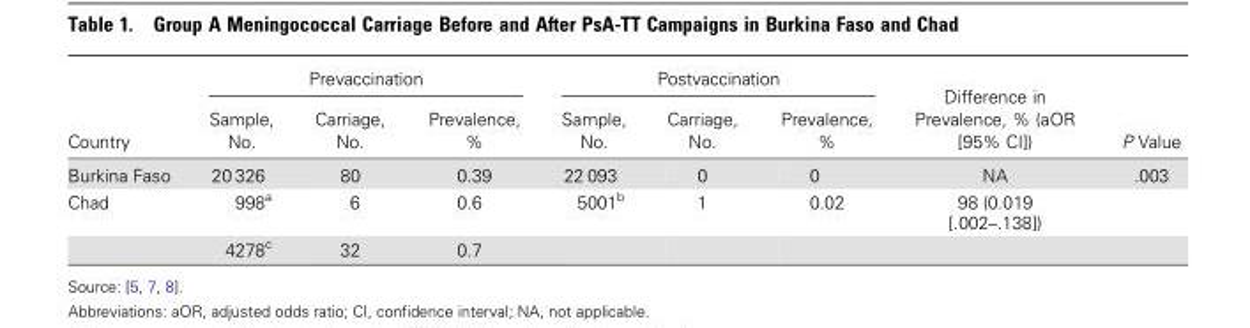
<table><thead><tr><td rowspan="2">Country</td><td colspan="3">Prevaccination</td><td colspan="3">Postvaccination</td><td rowspan="2">Difference in Prevalence, % (aOR [95% CI])</td><td rowspan="2">P Value</td></tr><tr><td>Sample, No.</td><td>Carriage, No.</td><td>Prevalence, %</td><td>Sample, No.</td><td>Carriage, No.</td><td>Prevalence, %</td></tr></thead><tbody><tr><td>Burkina Faso</td><td>20 326</td><td>80</td><td>0.39</td><td>22 093</td><td>0</td><td>0</td><td>NA</td><td>.003</td></tr><tr><td rowspan="2">Chad</td><td>998<sup>a</sup></td><td>6</td><td>0.6</td><td>5001<sup>b</sup></td><td>1</td><td>0.02</td><td>98 (0.019 [.002–.138])</td><td></td></tr><tr><td>4278<sup>c</sup></td><td>32</td><td>0.7</td><td></td><td></td><td></td><td></td><td></td></tr></tbody></table>